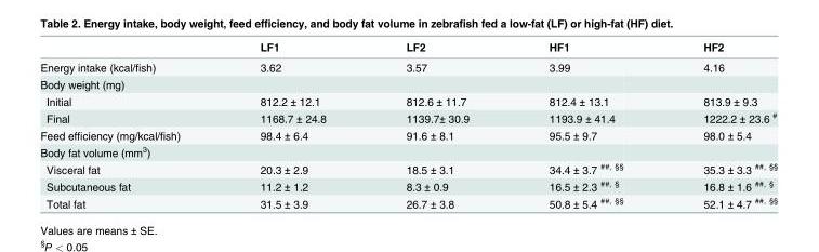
<table><thead><tr><td></td><td>LF1</td><td>LF2</td><td>HF1</td><td>HF2</td></tr></thead><tbody><tr><td>Energy intake (kcal/fish)</td><td>3.62</td><td>3.57</td><td>3.99</td><td>4.16</td></tr><tr><td colspan="5">Body weight (mg)</td></tr><tr><td>Initial</td><td>812.2 ± 12.1</td><td>812.6 ± 11.7</td><td>812.4 ± 13.1</td><td>813.9 ± 9.3</td></tr><tr><td>Final</td><td>1168.7 ± 24.8</td><td>1139.7± 30.9</td><td>1193.9 ± 41.4</td><td>1222.2 ± 23.6 <sup>#</sup></td></tr><tr><td>Feed efficiency (mg/kcal/fish)</td><td>98.4 ± 6.4</td><td>91.6 ± 8.1</td><td>95.5 ± 9.7</td><td>98.0 ± 5.4</td></tr><tr><td colspan="5">Body fat volume (mm<sup>3</sup>)</td></tr><tr><td>Visceral fat</td><td>20.3 ± 2.9</td><td>18.5 ± 3.1</td><td>34.4 ± 3.7 <sup>##, §§</sup></td><td>35.3 ± 3.3 <sup>##, §§</sup></td></tr><tr><td>Subcutaneous fat</td><td>11.2 ± 1.2</td><td>8.3 ± 0.9</td><td>16.5 ± 2.3 <sup>##, §</sup></td><td>16.8 ± 1.6 <sup>##, §</sup></td></tr><tr><td>Total fat</td><td>31.5 ± 3.9</td><td>26.7 ± 3.8</td><td>50.8 ± 5.4 <sup>##, §§</sup></td><td>52.1 ± 4.7 <sup>##, §§</sup></td></tr></tbody></table>